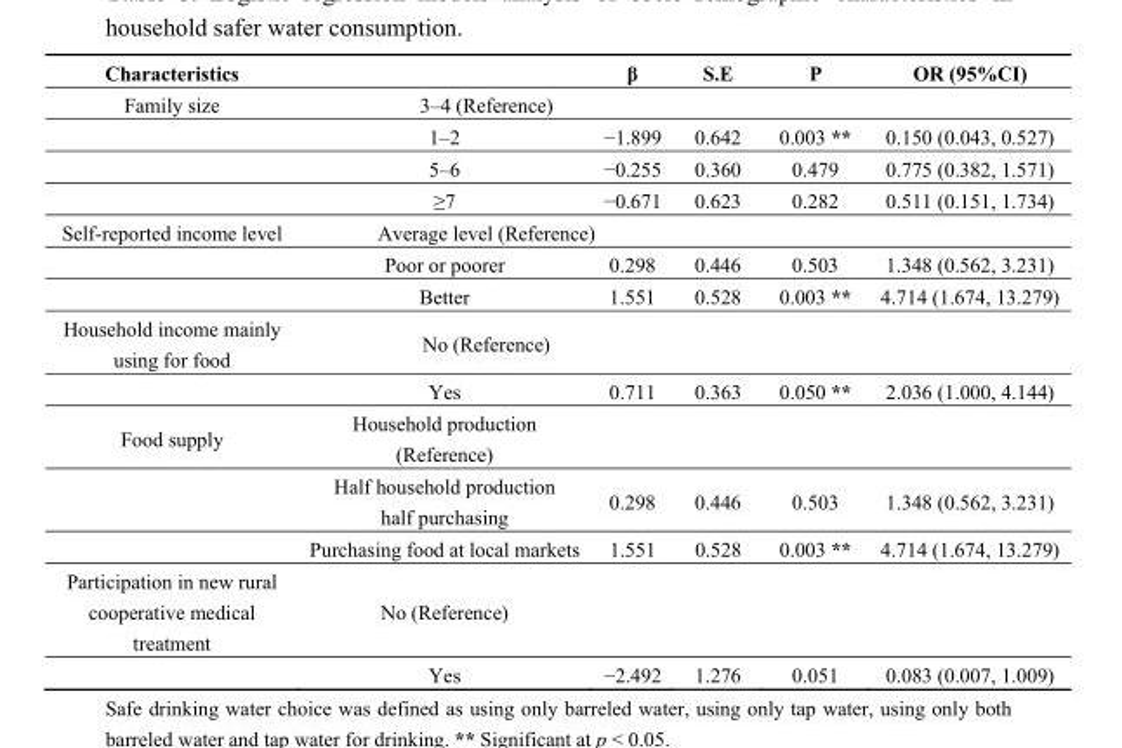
<table><thead><tr><td>Characteristics</td><td></td><td>β</td><td>S.E</td><td>P</td><td>OR (95%CI)</td></tr></thead><tbody><tr><td rowspan="4">Family size</td><td colspan="2">3–4 (Reference)</td><td></td><td></td><td></td></tr><tr><td>1–2</td><td>−1.899</td><td>0.642</td><td>0.003 **</td><td>0.150 (0.043, 0.527)</td></tr><tr><td>5–6</td><td>−0.255</td><td>0.360</td><td>0.479</td><td>0.775 (0.382, 1.571)</td></tr><tr><td>≥7</td><td>−0.671</td><td>0.623</td><td>0.282</td><td>0.511 (0.151, 1.734)</td></tr><tr><td rowspan="3">Self-reported income level</td><td colspan="2">Average level (Reference)</td><td></td><td></td><td></td></tr><tr><td>Poor or poorer</td><td>0.298</td><td>0.446</td><td>0.503</td><td>1.348 (0.562, 3.231)</td></tr><tr><td>Better</td><td>1.551</td><td>0.528</td><td>0.003 **</td><td>4.714 (1.674, 13.279)</td></tr><tr><td rowspan="2">Household income mainly using for food</td><td colspan="2">No (Reference)</td><td></td><td></td><td></td></tr><tr><td>Yes</td><td>0.711</td><td>0.363</td><td>0.050 **</td><td>2.036 (1.000, 4.144)</td></tr><tr><td rowspan="3">Food supply</td><td>Household production (Reference)</td><td></td><td></td><td></td><td></td></tr><tr><td>Half household production half purchasing</td><td>0.298</td><td>0.446</td><td>0.503</td><td>1.348 (0.562, 3.231)</td></tr><tr><td>Purchasing food at local markets</td><td>1.551</td><td>0.528</td><td>0.003 **</td><td>4.714 (1.674, 13.279)</td></tr><tr><td rowspan="2">Participation in new rural cooperative medical treatment</td><td>No (Reference)</td><td></td><td></td><td></td><td></td></tr><tr><td>Yes</td><td>−2.492</td><td>1.276</td><td>0.051</td><td>0.083 (0.007, 1.009)</td></tr></tbody></table>